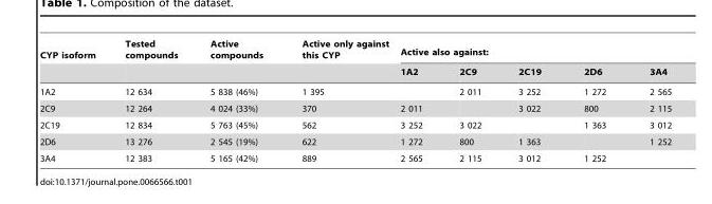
<table><thead><tr><td rowspan="2">CYP isoform</td><td rowspan="2">Tested compounds</td><td rowspan="2">Active compounds</td><td rowspan="2">Active only against this CYP</td><td colspan="5">Active also against:</td></tr><tr><td>1A2</td><td>2C9</td><td>2C19</td><td>2D6</td><td>3A4</td></tr></thead><tbody><tr><td>1A2</td><td>12 634</td><td>5 838 (46%)</td><td>1 395</td><td></td><td>2 011</td><td>3 252</td><td>1 272</td><td>2 565</td></tr><tr><td>2C9</td><td>12 264</td><td>4 024 (33%)</td><td>370</td><td>2 011</td><td></td><td>3 022</td><td>800</td><td>2 115</td></tr><tr><td>2C19</td><td>12 834</td><td>5 763 (45%)</td><td>562</td><td>3 252</td><td>3 022</td><td></td><td>1 363</td><td>3 012</td></tr><tr><td>2D6</td><td>13 276</td><td>2 545 (19%)</td><td>622</td><td>1 272</td><td>800</td><td>1 363</td><td></td><td>1 252</td></tr><tr><td>3A4</td><td>12 383</td><td>5 165 (42%)</td><td>889</td><td>2 565</td><td>2 115</td><td>3 012</td><td>1 252</td><td></td></tr></tbody></table>